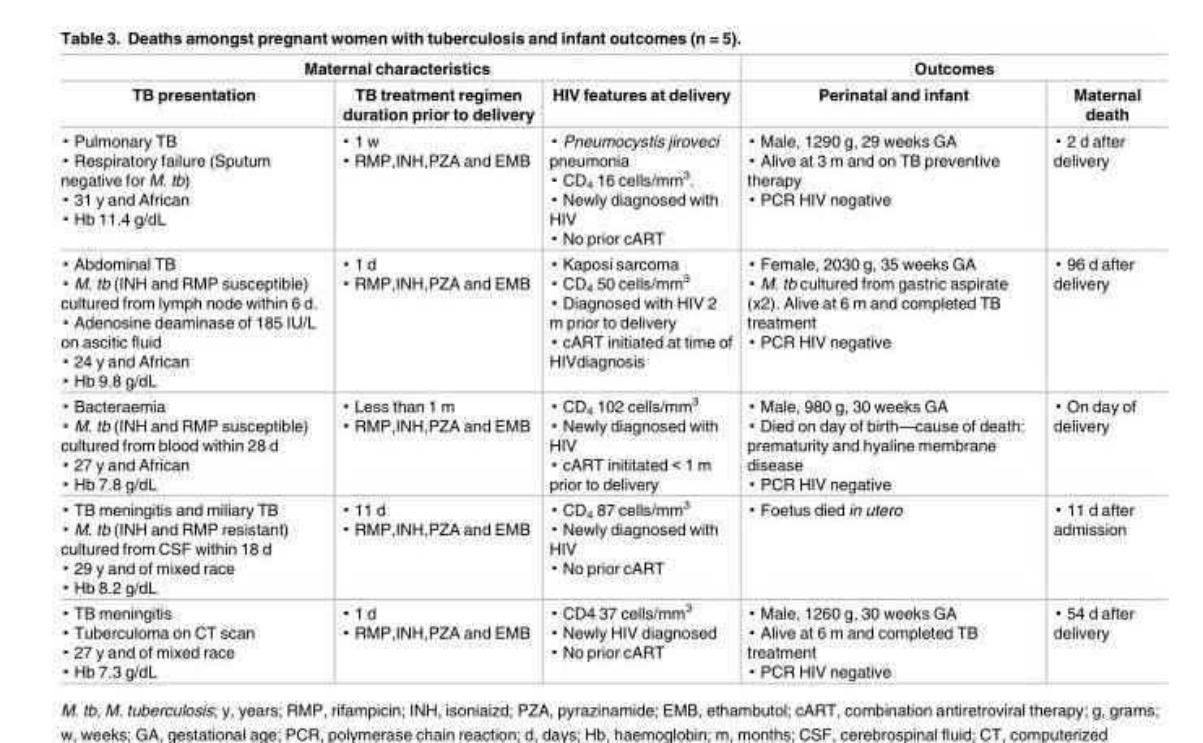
<table><thead><tr><td colspan="3">Maternal characteristics</td><td colspan="2">Outcomes</td></tr><tr><td>TB presentation</td><td>TB treatment regimen duration prior to delivery</td><td>HIV features at delivery</td><td>Perinatal and infant</td><td>Maternal death</td></tr></thead><tbody><tr><td>▪ Pulmonary TB ▪ Respiratory failure (Sputum negative for M. tb) ▪ 31 y and African ▪ Hb 11.4 g/dL</td><td>▪ 1 w ▪ RMP,INH,PZA and EMB</td><td>▪ Pneumocystis jiroveci pneumonia ▪ CD<sub>4</sub> 16 cells/mm<sup>3</sup>. ▪ Newly diagnosed with HIV ▪ No prior cART</td><td>▪ Male, 1290 g, 29 weeks GA ▪ Alive at 3 m and on TB preventive therapy ▪ PCR HIV negative</td><td>▪ 2 d after delivery</td></tr><tr><td>▪ Abdominal TB ▪ M. tb (INH and RMP susceptible) cultured from lymph node within 6 d. ▪ Adenosine deaminase of 185 IU/L on ascitic fluid ▪ 24 y and African ▪ Hb 9.8 g/dL</td><td>▪ 1 d ▪ RMP,INH,PZA and EMB</td><td>▪ Kaposi sarcoma ▪ CD<sub>4</sub> 50 cells/mm<sup>3</sup> ▪ Diagnosed with HIV 2 m prior to delivery ▪ cART initiated at time of HIVdiagnosis</td><td>▪ Female, 2030 g, 35 weeks GA ▪ M. tb cultured from gastric aspirate (x2). Alive at 6 m and completed TB treatment ▪ PCR HIV negative</td><td>▪ 96 d after delivery</td></tr><tr><td>▪ Bacteraemia ▪ M. tb (INH and RMP susceptible) cultured from blood within 28 d ▪ 27 y and African ▪ Hb 7.8 g/dL</td><td>▪ Less than 1 m ▪ RMP,INH,PZA and EMB</td><td>▪ CD<sub>4</sub> 102 cells/mm<sup>3</sup> ▪ Newly diagnosed with HIV ▪ cART inititated &lt; 1 m prior to delivery</td><td>▪ Male, 980 g, 30 weeks GA ▪ Died on day of birth—cause of death: prematurity and hyaline membrane disease ▪ PCR HIV negative</td><td>▪ On day of delivery</td></tr><tr><td>▪ TB meningitis and miliary TB ▪ M. tb (INH and RMP resistant) cultured from CSF within 18 d ▪ 29 y and of mixed race ▪ Hb 8.2 g/dL</td><td>▪ 11 d ▪ RMP,INH,PZA and EMB</td><td>▪ CD<sub>4</sub> 87 cells/mm<sup>3</sup> ▪ Newly diagnosed with HIV ▪ No prior cART</td><td>▪ Foetus died in utero</td><td>▪ 11 d after admission</td></tr><tr><td>▪ TB meningitis ▪ Tuberculoma on CT scan ▪ 27 y and of mixed race ▪ Hb 7.3 g/dL</td><td>▪ 1 d ▪ RMP,INH,PZA and EMB</td><td>▪ CD4 37 cells/mm<sup>3</sup> ▪ Newly HIV diagnosed ▪ No prior cART</td><td>▪ Male, 1260 g, 30 weeks GA ▪ Alive at 6 m and completed TB treatment ▪ PCR HIV negative</td><td>▪ 54 d after delivery</td></tr></tbody></table>